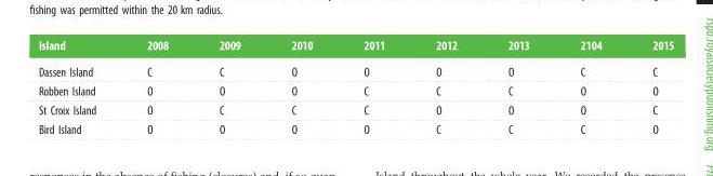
<table><thead><tr><td>Island</td><td>2008</td><td>2009</td><td>2010</td><td>2011</td><td>2012</td><td>2013</td><td>2104</td><td>2015</td></tr></thead><tbody><tr><td>Dassen Island</td><td>C</td><td>C</td><td>O</td><td>O</td><td>O</td><td>O</td><td>C</td><td>C</td></tr><tr><td>Robben Island</td><td>O</td><td>O</td><td>O</td><td>C</td><td>C</td><td>C</td><td>O</td><td>O</td></tr><tr><td>St Croix Island</td><td>O</td><td>C</td><td>C</td><td>C</td><td>O</td><td>O</td><td>O</td><td>C</td></tr><tr><td>Bird Island</td><td>O</td><td>O</td><td>O</td><td>O</td><td>C</td><td>C</td><td>C</td><td>O</td></tr></tbody></table>